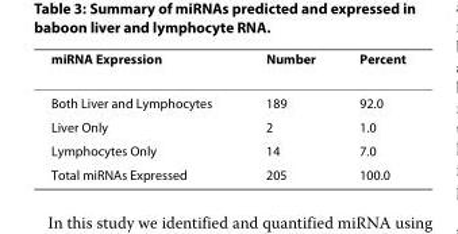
<table><thead><tr><td>miRNA Expression</td><td>Number</td><td>Percent</td></tr></thead><tbody><tr><td>Both Liver and Lymphocytes</td><td>189</td><td>92.0</td></tr><tr><td>Liver Only</td><td>2</td><td>1.0</td></tr><tr><td>Lymphocytes Only</td><td>14</td><td>7.0</td></tr><tr><td>Total miRNAs Expressed</td><td>205</td><td>100.0</td></tr></tbody></table>